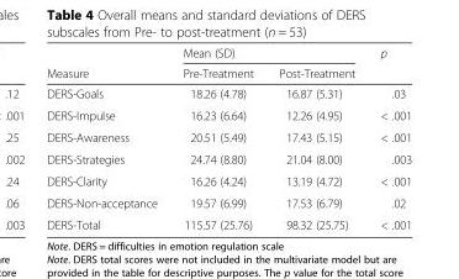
<table><thead><tr><td rowspan="2">Measure</td><td colspan="2">Mean (SD)</td><td rowspan="2">p</td></tr><tr><td>Pre-Treatment</td><td>Post-Treatment</td></tr></thead><tbody><tr><td>DERS-Goals</td><td>18.26 (4.78)</td><td>16.87 (5.31)</td><td>.03</td></tr><tr><td>DERS-Impulse</td><td>16.23 (6.64)</td><td>12.26 (4.95)</td><td>&lt; .001</td></tr><tr><td>DERS-Awareness</td><td>20.51 (5.49)</td><td>17.43 (5.15)</td><td>&lt; .001</td></tr><tr><td>DERS-Strategies</td><td>24.74 (8.80)</td><td>21.04 (8.00)</td><td>.003</td></tr><tr><td>DERS-Clarity</td><td>16.26 (4.24)</td><td>13.19 (4.72)</td><td>&lt; .001</td></tr><tr><td>DERS-Non-acceptance</td><td>19.57 (6.99)</td><td>17.53 (6.79)</td><td>.02</td></tr><tr><td>DERS-Total</td><td>115.57 (25.76)</td><td>98.32 (25.75)</td><td>&lt; .001</td></tr></tbody></table>